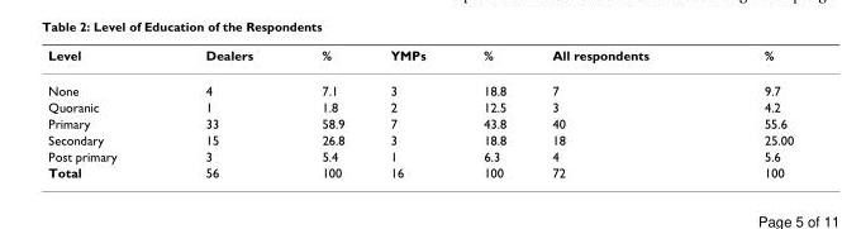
<table><thead><tr><td>Level</td><td>Dealers</td><td>%</td><td>YMPs</td><td>%</td><td>All respondents</td><td>%</td></tr></thead><tbody><tr><td>None</td><td>4</td><td>7.1</td><td>3</td><td>18.8</td><td>7</td><td>9.7</td></tr><tr><td>Quoranic</td><td>1</td><td>1.8</td><td>2</td><td>12.5</td><td>3</td><td>4.2</td></tr><tr><td>Primary</td><td>33</td><td>58.9</td><td>7</td><td>43.8</td><td>40</td><td>55.6</td></tr><tr><td>Secondary</td><td>15</td><td>26.8</td><td>3</td><td>18.8</td><td>18</td><td>25.00</td></tr><tr><td>Post primary</td><td>3</td><td>5.4</td><td>1</td><td>6.3</td><td>4</td><td>5.6</td></tr><tr><td>Total</td><td>56</td><td>100</td><td>16</td><td>100</td><td>72</td><td>100</td></tr></tbody></table>